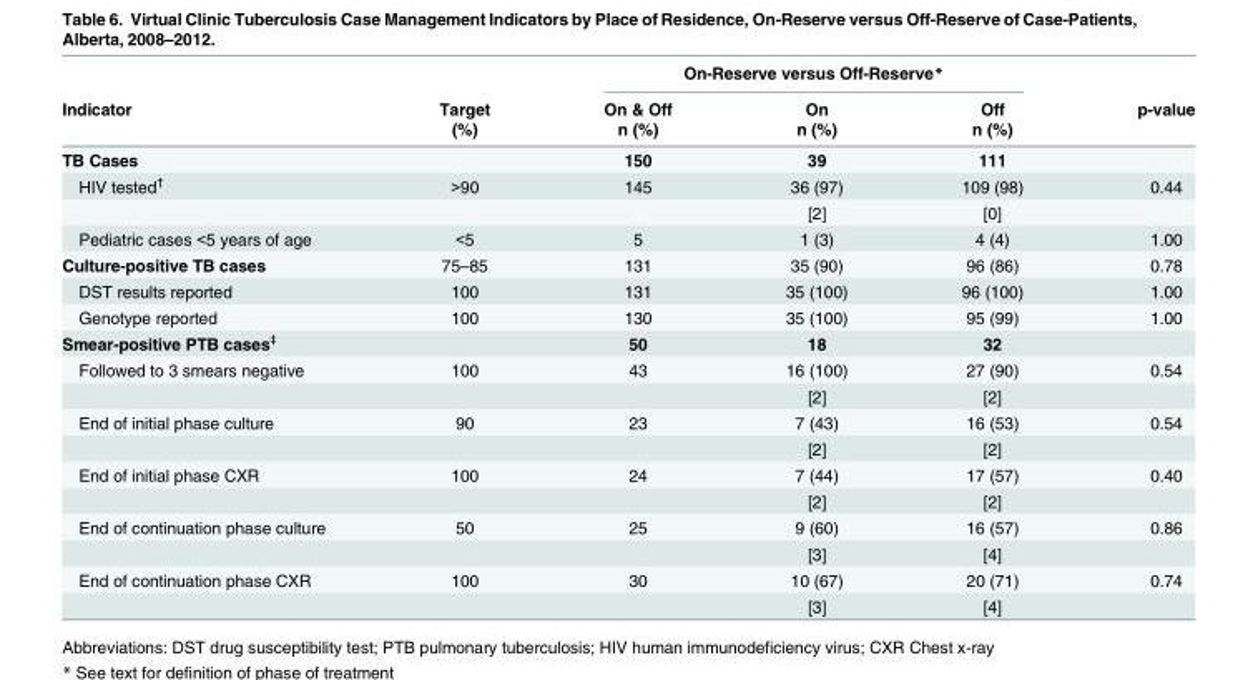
<table><thead><tr><td rowspan="3">Indicator</td><td rowspan="3">Target (%)</td><td colspan="3">On-Reserve versus Off-Reserve*</td><td rowspan="3">p-value</td></tr><tr><td rowspan="2">On &amp; Off n (%)</td><td rowspan="2">On n (%)</td><td rowspan="2">Off n (%)</td></tr><tr></tr></thead><tbody><tr><td>TB Cases</td><td></td><td>150</td><td>39</td><td>111</td><td></td></tr><tr><td rowspan="2">HIV tested<sup>†</sup></td><td>&gt;90</td><td>145</td><td>36 (97)</td><td>109 (98)</td><td>0.44</td></tr><tr><td></td><td></td><td>[2]</td><td>[0]</td><td></td></tr><tr><td>Pediatric cases &lt;5 years of age</td><td>&lt;5</td><td>5</td><td>1 (3)</td><td>4 (4)</td><td>1.00</td></tr><tr><td>Culture-positive TB cases</td><td>75–85</td><td>131</td><td>35 (90)</td><td>96 (86)</td><td>0.78</td></tr><tr><td>DST results reported</td><td>100</td><td>131</td><td>35 (100)</td><td>96 (100)</td><td>1.00</td></tr><tr><td>Genotype reported</td><td>100</td><td>130</td><td>35 (100)</td><td>95 (99)</td><td>1.00</td></tr><tr><td>Smear-positive PTB cases<sup>‡</sup></td><td></td><td>50</td><td>18</td><td>32</td><td></td></tr><tr><td rowspan="2">Followed to 3 smears negative</td><td>100</td><td>43</td><td>16 (100)</td><td>27 (90)</td><td>0.54</td></tr><tr><td></td><td></td><td>[2]</td><td>[2]</td><td></td></tr><tr><td rowspan="2">End of initial phase culture</td><td>90</td><td>23</td><td>7 (43)</td><td>16 (53)</td><td>0.54</td></tr><tr><td></td><td></td><td>[2]</td><td>[2]</td><td></td></tr><tr><td rowspan="2">End of initial phase CXR</td><td>100</td><td>24</td><td>7 (44)</td><td>17 (57)</td><td>0.40</td></tr><tr><td></td><td></td><td>[2]</td><td>[2]</td><td></td></tr><tr><td rowspan="2">End of continuation phase culture</td><td>50</td><td>25</td><td>9 (60)</td><td>16 (57)</td><td>0.86</td></tr><tr><td></td><td></td><td>[3]</td><td>[4]</td><td></td></tr><tr><td rowspan="2">End of continuation phase CXR</td><td>100</td><td>30</td><td>10 (67)</td><td>20 (71)</td><td>0.74</td></tr><tr><td></td><td></td><td>[3]</td><td>[4]</td><td></td></tr></tbody></table>